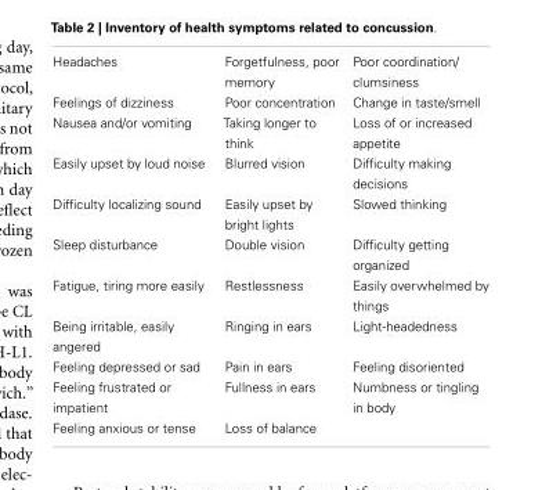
<table><tbody><tr><td>Headaches</td><td>Forgetfulness, poor memory</td><td>Poor coordination/ clumsiness</td></tr><tr><td>Feelings of dizziness</td><td>Poor concentration</td><td>Change in taste/smell</td></tr><tr><td>Nausea and/or vomiting</td><td>Taking longer to think</td><td>Loss of or increased appetite</td></tr><tr><td>Easily upset by loud noise</td><td>Blurred vision</td><td>Difficulty making decisions</td></tr><tr><td>Difficulty localizing sound</td><td>Easily upset by bright lights</td><td>Slowed thinking</td></tr><tr><td>Sleep disturbance</td><td>Double vision</td><td>Difficulty getting organized</td></tr><tr><td>Fatigue, tiring more easily</td><td>Restlessness</td><td>Easily overwhelmed by things</td></tr><tr><td>Being irritable, easily angered</td><td>Ringing in ears</td><td>Light-headedness</td></tr><tr><td>Feeling depressed or sad</td><td>Pain in ears</td><td>Feeling disoriented</td></tr><tr><td>Feeling frustrated or impatient</td><td>Fullness in ears</td><td>Numbness or tingling in body</td></tr><tr><td>Feeling anxious or tense</td><td>Loss of balance</td><td></td></tr></tbody></table>